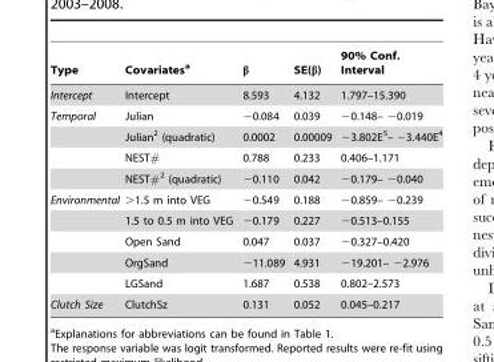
<table><thead><tr><td>Type</td><td>Covariates<sup>a</sup></td><td>β</td><td>SE(β)</td><td>90% Conf. Interval</td></tr></thead><tbody><tr><td>Intercept</td><td>Intercept</td><td>8.593</td><td>4.132</td><td>1.797–15.390</td></tr><tr><td rowspan="4">Temporal</td><td>Julian</td><td>−0.084</td><td>0.039</td><td>−0.148– −0.019</td></tr><tr><td>Julian<sup>2</sup> (quadratic)</td><td>0.0002</td><td>0.00009</td><td>−3.802E<sup>5</sup>– −3.440E<sup>4</sup></td></tr><tr><td>NEST#</td><td>0.788</td><td>0.233</td><td>0.406–1.171</td></tr><tr><td>NEST#<sup>2</sup> (quadratic)</td><td>−0.110</td><td>0.042</td><td>−0.179– −0.040</td></tr><tr><td rowspan="5">Environmental</td><td>&gt;1.5 m into VEG</td><td>−0.549</td><td>0.188</td><td>−0.859– −0.239</td></tr><tr><td>1.5 to 0.5 m into VEG</td><td>−0.179</td><td>0.227</td><td>−0.513–0.155</td></tr><tr><td>Open Sand</td><td>0.047</td><td>0.037</td><td>−0.327–0.420</td></tr><tr><td>OrgSand</td><td>−11.089</td><td>4.931</td><td>−19.201– −2.976</td></tr><tr><td>LGSand</td><td>1.687</td><td>0.538</td><td>0.802–2.573</td></tr><tr><td>Clutch Size</td><td>ClutchSz</td><td>0.131</td><td>0.052</td><td>0.045–0.217</td></tr></tbody></table>